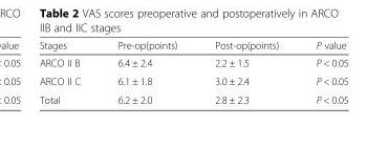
<table><thead><tr><td>Stages</td><td>Pre-op(points)</td><td>Post-op(points)</td><td>P value</td></tr></thead><tbody><tr><td>ARCO II B</td><td>6.4 ± 2.4</td><td>2.2 ± 1.5</td><td>P &lt; 0.05</td></tr><tr><td>ARCO II C</td><td>6.1 ± 1.8</td><td>3.0 ± 2.4</td><td>P &lt; 0.05</td></tr><tr><td>Total</td><td>6.2 ± 2.0</td><td>2.8 ± 2.3</td><td>P &lt; 0.05</td></tr></tbody></table>